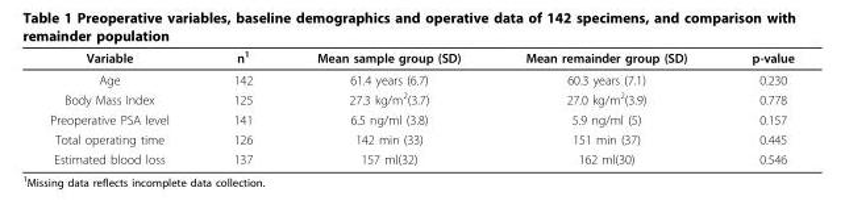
<table><thead><tr><td>Variable</td><td>n<sup>1</sup></td><td>Mean sample group (SD)</td><td>Mean remainder group (SD)</td><td>p-value</td></tr></thead><tbody><tr><td>Age</td><td>142</td><td>61.4 years (6.7)</td><td>60.3 years (7.1)</td><td>0.230</td></tr><tr><td>Body Mass Index</td><td>125</td><td>27.3 kg/m<sup>2</sup>(3.7)</td><td>27.0 kg/m<sup>2</sup>(3.9)</td><td>0.778</td></tr><tr><td>Preoperative PSA level</td><td>141</td><td>6.5 ng/ml (3.8)</td><td>5.9 ng/ml (5)</td><td>0.157</td></tr><tr><td>Total operating time</td><td>126</td><td>142 min (33)</td><td>151 min (37)</td><td>0.445</td></tr><tr><td>Estimated blood loss</td><td>137</td><td>157 ml(32)</td><td>162 ml(30)</td><td>0.546</td></tr></tbody></table>